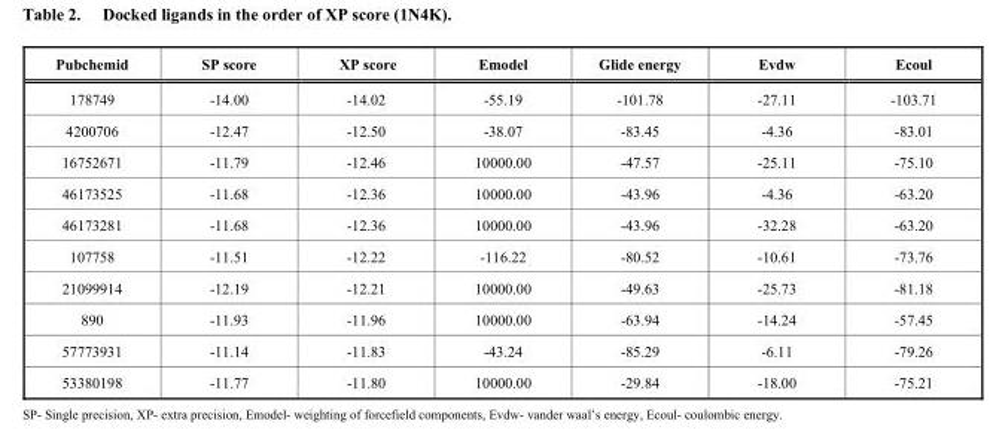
<table><thead><tr><td>Pubchemid</td><td>SP score</td><td>XP score</td><td>Emodel</td><td>Glide energy</td><td>Evdw</td><td>Ecoul</td></tr></thead><tbody><tr><td>178749</td><td>-14.00</td><td>-14.02</td><td>-55.19</td><td>-101.78</td><td>-27.11</td><td>-103.71</td></tr><tr><td>4200706</td><td>-12.47</td><td>-12.50</td><td>-38.07</td><td>-83.45</td><td>-4.36</td><td>-83.01</td></tr><tr><td>16752671</td><td>-11.79</td><td>-12.46</td><td>10000.00</td><td>-47.57</td><td>-25.11</td><td>-75.10</td></tr><tr><td>46173525</td><td>-11.68</td><td>-12.36</td><td>10000.00</td><td>-43.96</td><td>-4.36</td><td>-63.20</td></tr><tr><td>46173281</td><td>-11.68</td><td>-12.36</td><td>10000.00</td><td>-43.96</td><td>-32.28</td><td>-63.20</td></tr><tr><td>107758</td><td>-11.51</td><td>-12.22</td><td>-116.22</td><td>-80.52</td><td>-10.61</td><td>-73.76</td></tr><tr><td>21099914</td><td>-12.19</td><td>-12.21</td><td>10000.00</td><td>-49.63</td><td>-25.73</td><td>-81.18</td></tr><tr><td>890</td><td>-11.93</td><td>-11.96</td><td>10000.00</td><td>-63.94</td><td>-14.24</td><td>-57.45</td></tr><tr><td>57773931</td><td>-11.14</td><td>-11.83</td><td>-43.24</td><td>-85.29</td><td>-6.11</td><td>-79.26</td></tr><tr><td>53380198</td><td>-11.77</td><td>-11.80</td><td>10000.00</td><td>-29.84</td><td>-18.00</td><td>-75.21</td></tr></tbody></table>